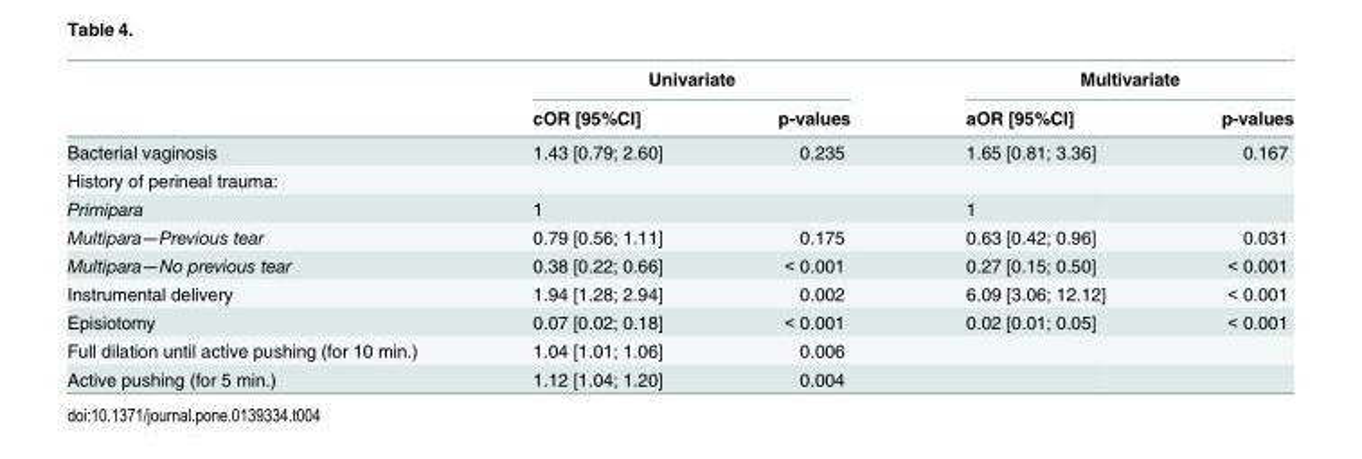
<table><thead><tr><td rowspan="2"></td><td colspan="2">Univariate</td><td colspan="2">Multivariate</td></tr><tr><td>cOR [95%CI]</td><td>p-values</td><td>aOR [95%CI]</td><td>p-values</td></tr></thead><tbody><tr><td>Bacterial vaginosis</td><td>1.43 [0.79; 2.60]</td><td>0.235</td><td>1.65 [0.81; 3.36]</td><td>0.167</td></tr><tr><td colspan="5">History of perineal trauma:</td></tr><tr><td>Primipara</td><td>1</td><td></td><td>1</td><td></td></tr><tr><td>Multipara—Previous tear</td><td>0.79 [0.56; 1.11]</td><td>0.175</td><td>0.63 [0.42; 0.96]</td><td>0.031</td></tr><tr><td>Multipara—No previous tear</td><td>0.38 [0.22; 0.66]</td><td>&lt; 0.001</td><td>0.27 [0.15; 0.50]</td><td>&lt; 0.001</td></tr><tr><td>Instrumental delivery</td><td>1.94 [1.28; 2.94]</td><td>0.002</td><td>6.09 [3.06; 12.12]</td><td>&lt; 0.001</td></tr><tr><td>Episiotomy</td><td>0.07 [0.02; 0.18]</td><td>&lt; 0.001</td><td>0.02 [0.01; 0.05]</td><td>&lt; 0.001</td></tr><tr><td>Full dilation until active pushing (for 10 min.)</td><td>1.04 [1.01; 1.06]</td><td>0.006</td><td></td><td></td></tr><tr><td>Active pushing (for 5 min.)</td><td>1.12 [1.04; 1.20]</td><td>0.004</td><td></td><td></td></tr></tbody></table>